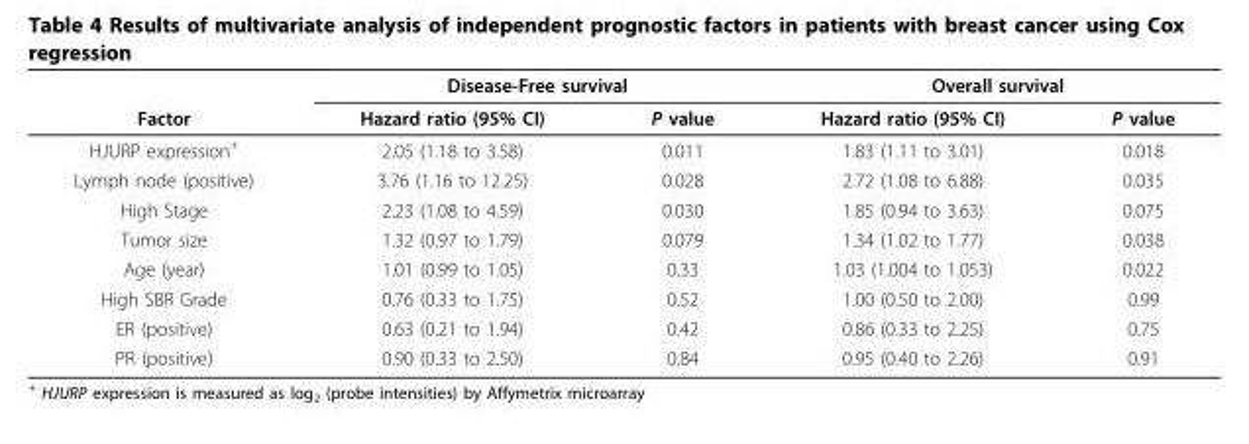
<table><thead><tr><td rowspan="2">Factor</td><td colspan="2">Disease-Free survival</td><td colspan="2">Overall survival</td></tr><tr><td>Hazard ratio (95% CI)</td><td>P value</td><td>Hazard ratio (95% CI)</td><td>P value</td></tr></thead><tbody><tr><td>HJURP expression<sup>+</sup></td><td>2.05 (1.18 to 3.58)</td><td>0.011</td><td>1.83 (1.11 to 3.01)</td><td>0.018</td></tr><tr><td>Lymph node (positive)</td><td>3.76 (1.16 to 12.25)</td><td>0.028</td><td>2.72 (1.08 to 6.88)</td><td>0.035</td></tr><tr><td>High Stage</td><td>2.23 (1.08 to 4.59)</td><td>0.030</td><td>1.85 (0.94 to 3.63)</td><td>0.075</td></tr><tr><td>Tumor size</td><td>1.32 (0.97 to 1.79)</td><td>0.079</td><td>1.34 (1.02 to 1.77)</td><td>0.038</td></tr><tr><td>Age (year)</td><td>1.01 (0.99 to 1.05)</td><td>0.33</td><td>1.03 (1.004 to 1.053)</td><td>0.022</td></tr><tr><td>High SBR Grade</td><td>0.76 (0.33 to 1.75)</td><td>0.52</td><td>1.00 (0.50 to 2.00)</td><td>0.99</td></tr><tr><td>ER (positive)</td><td>0.63 (0.21 to 1.94)</td><td>0.42</td><td>0.86 (0.33 to 2.25)</td><td>0.75</td></tr><tr><td>PR (positive)</td><td>0.90 (0.33 to 2.50)</td><td>0.84</td><td>0.95 (0.40 to 2.26)</td><td>0.91</td></tr></tbody></table>